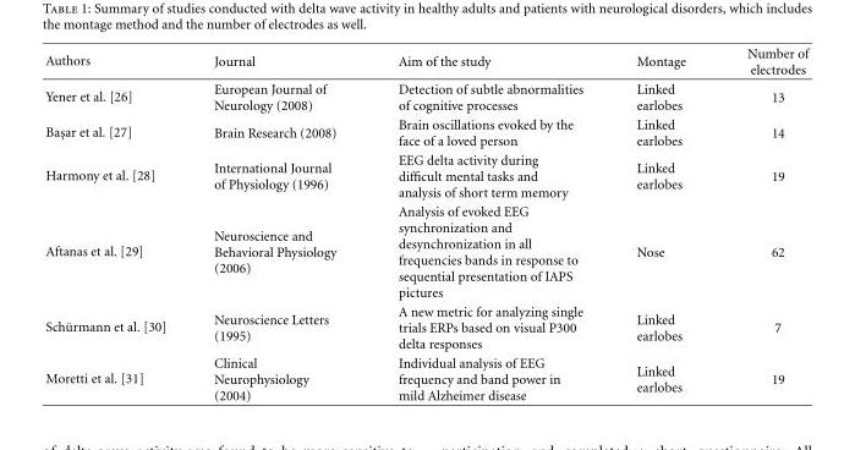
<table><thead><tr><td>Authors</td><td>Journal</td><td>Aim of the study</td><td>Montage</td><td>Number of electrodes</td></tr></thead><tbody><tr><td>Yener et al. [26]</td><td>European Journal of Neurology (2008)</td><td>Detection of subtle abnormalities of cognitive processes</td><td>Linked earlobes</td><td>13</td></tr><tr><td>Bas¸ar et al. [27]</td><td>Brain Research (2008)</td><td>Brain oscillations evoked by the face of a loved person</td><td>Linked earlobes</td><td>14</td></tr><tr><td>Harmony et al. [28]</td><td>International Journal of Physiology (1996)</td><td>EEG delta activity during difficult mental tasks and analysis of short term memory</td><td>Linked earlobes</td><td>19</td></tr><tr><td>Aftanas et al. [29]</td><td>Neuroscience and Behavioral Physiology (2006)</td><td>Analysis of evoked EEG synchronization and desynchronization in all frequencies bands in response to sequential presentation of IAPS pictures</td><td>Nose</td><td>62</td></tr><tr><td>Sch¨urmann et al. [30]</td><td>Neuroscience Letters (1995)</td><td>A new metric for analyzing single trials ERPs based on visual P300 delta responses</td><td>Linked earlobes</td><td>7</td></tr><tr><td>Moretti et al. [31]</td><td>Clinical Neurophysiology (2004)</td><td>Individual analysis of EEG frequency and band power in mild Alzheimer disease</td><td>Linked earlobes</td><td>19</td></tr></tbody></table>